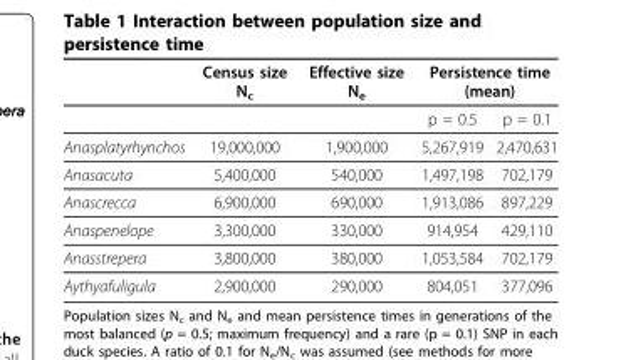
<table><thead><tr><td rowspan="2"></td><td rowspan="2">Census size N<sub>c</sub></td><td rowspan="2">Effective size N<sub>e</sub></td><td colspan="2">Persistence time (mean)</td></tr><tr><td>p = 0.5</td><td>p = 0.1</td></tr></thead><tbody><tr><td>Anasplatyrhynchos</td><td>19,000,000</td><td>1,900,000</td><td>5,267,919</td><td>2,470,631</td></tr><tr><td>Anasacuta</td><td>5,400,000</td><td>540,000</td><td>1,497,198</td><td>702,179</td></tr><tr><td>Anascrecca</td><td>6,900,000</td><td>690,000</td><td>1,913,086</td><td>897,229</td></tr><tr><td>Anaspenelope</td><td>3,300,000</td><td>330,000</td><td>914,954</td><td>429,110</td></tr><tr><td>Anasstrepera</td><td>3,800,000</td><td>380,000</td><td>1,053,584</td><td>702,179</td></tr><tr><td>Aythyafuligula</td><td>2,900,000</td><td>290,000</td><td>804,051</td><td>377,096</td></tr></tbody></table>